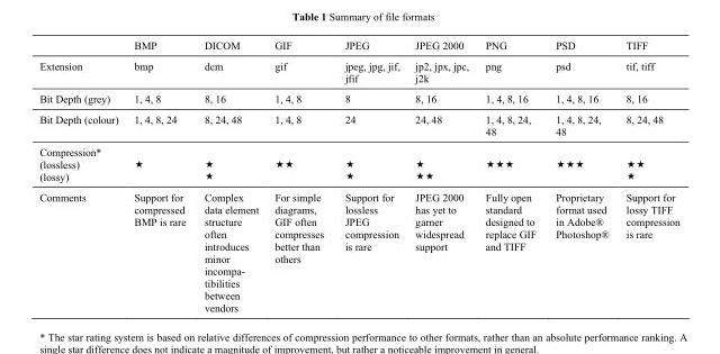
<table><thead><tr><td></td><td>BMP</td><td>DICOM</td><td>GIF</td><td>JPEG</td><td>JPEG 2000</td><td>PNG</td><td>PSD</td><td>TIFF</td></tr></thead><tbody><tr><td>Extension</td><td>bmp</td><td>dcm</td><td>gif</td><td>jpeg, jpg, jif, jfif</td><td>jp2, jpx, jpc, j2k</td><td>png</td><td>psd</td><td>tif, tiff</td></tr><tr><td>Bit Depth (grey)</td><td>1, 4, 8</td><td>8, 16</td><td>1, 4, 8</td><td>8</td><td>8, 16</td><td>1, 4, 8, 16</td><td>1, 4, 8, 16</td><td>8, 16</td></tr><tr><td>Bit Depth (colour)</td><td>1, 4, 8, 24</td><td>8, 24, 48</td><td>1, 4, 8</td><td>24</td><td>24, 48</td><td>1, 4, 8, 24, 48</td><td>1, 4, 8, 24, 48</td><td>8, 24, 48</td></tr><tr><td>Compression* (lossless) (lossy)</td><td>«</td><td>« «</td><td>««</td><td>« «</td><td>« ««</td><td>«««</td><td>«««</td><td>«« «</td></tr><tr><td>Comments</td><td>Support for compressed BMP is rare</td><td>Complex data element structure often introduces minor incompa- tibilities between vendors</td><td>For simple diagrams, GIF often compresses better than others</td><td>Support for lossless JPEG compression is rare</td><td>JPEG 2000 has yet to garner widespread support</td><td>Fully open standard designed to replace GIF and TIFF</td><td>Proprietary format used in Adobe® Photoshop®</td><td>Support for lossy TIFF compression is rare</td></tr></tbody></table>